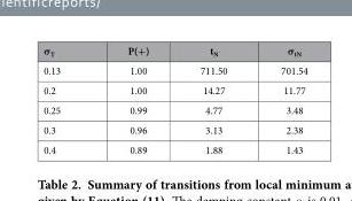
<table><thead><tr><td>σ<sub>T</sub></td><td>P(+)</td><td>t<sub>N</sub></td><td>σ<sub>tN</sub></td></tr></thead><tbody><tr><td>0.13</td><td>1.00</td><td>711.50</td><td>701.54</td></tr><tr><td>0.2</td><td>1.00</td><td>14.27</td><td>11.77</td></tr><tr><td>0.25</td><td>0.99</td><td>4.77</td><td>3.48</td></tr><tr><td>0.3</td><td>0.96</td><td>3.13</td><td>2.38</td></tr><tr><td>0.4</td><td>0.89</td><td>1.88</td><td>1.43</td></tr></tbody></table>